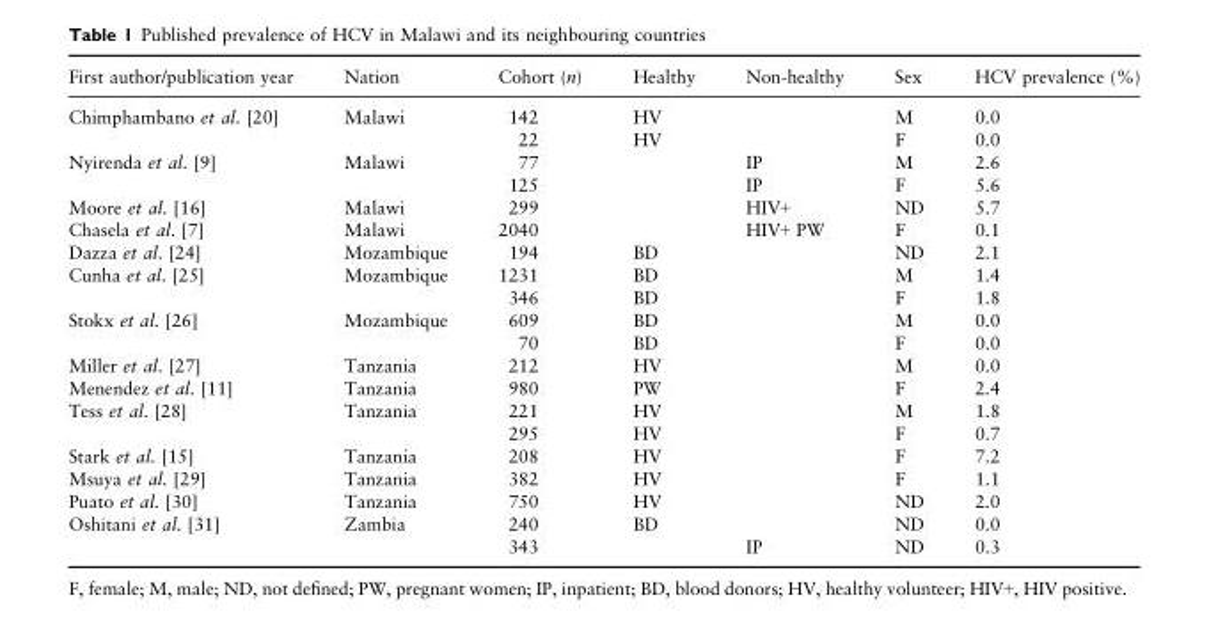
<table><thead><tr><td>First author/publication year</td><td>Nation</td><td>Cohort (n)</td><td>Healthy</td><td>Non-healthy</td><td>Sex</td><td>HCV prevalence (%)</td></tr></thead><tbody><tr><td rowspan="2">Chimphambano et al. [20]</td><td rowspan="2">Malawi</td><td>142</td><td>HV</td><td></td><td>M</td><td>0.0</td></tr><tr><td>22</td><td>HV</td><td></td><td>F</td><td>0.0</td></tr><tr><td rowspan="2">Nyirenda et al. [9]</td><td rowspan="2">Malawi</td><td>77</td><td></td><td>IP</td><td>M</td><td>2.6</td></tr><tr><td>125</td><td></td><td>IP</td><td>F</td><td>5.6</td></tr><tr><td>Moore et al. [16]</td><td>Malawi</td><td>299</td><td></td><td>HIV+</td><td>ND</td><td>5.7</td></tr><tr><td>Chasela et al. [7]</td><td>Malawi</td><td>2040</td><td></td><td>HIV+ PW</td><td>F</td><td>0.1</td></tr><tr><td>Dazza et al. [24]</td><td>Mozambique</td><td>194</td><td>BD</td><td></td><td>ND</td><td>2.1</td></tr><tr><td rowspan="2">Cunha et al. [25]</td><td rowspan="2">Mozambique</td><td>1231</td><td>BD</td><td></td><td>M</td><td>1.4</td></tr><tr><td>346</td><td>BD</td><td></td><td>F</td><td>1.8</td></tr><tr><td rowspan="2">Stokx et al. [26]</td><td rowspan="2">Mozambique</td><td>609</td><td>BD</td><td></td><td>M</td><td>0.0</td></tr><tr><td>70</td><td>BD</td><td></td><td>F</td><td>0.0</td></tr><tr><td>Miller et al. [27]</td><td>Tanzania</td><td>212</td><td>HV</td><td></td><td>M</td><td>0.0</td></tr><tr><td>Menendez et al. [11]</td><td>Tanzania</td><td>980</td><td>PW</td><td></td><td>F</td><td>2.4</td></tr><tr><td rowspan="2">Tess et al. [28]</td><td rowspan="2">Tanzania</td><td>221</td><td>HV</td><td></td><td>M</td><td>1.8</td></tr><tr><td>295</td><td>HV</td><td></td><td>F</td><td>0.7</td></tr><tr><td>Stark et al. [15]</td><td>Tanzania</td><td>208</td><td>HV</td><td></td><td>F</td><td>7.2</td></tr><tr><td>Msuya et al. [29]</td><td>Tanzania</td><td>382</td><td>HV</td><td></td><td>F</td><td>1.1</td></tr><tr><td>Puato et al. [30]</td><td>Tanzania</td><td>750</td><td>HV</td><td></td><td>ND</td><td>2.0</td></tr><tr><td rowspan="2">Oshitani et al. [31]</td><td rowspan="2">Zambia</td><td>240</td><td>BD</td><td></td><td>ND</td><td>0.0</td></tr><tr><td>343</td><td></td><td>IP</td><td>ND</td><td>0.3</td></tr></tbody></table>